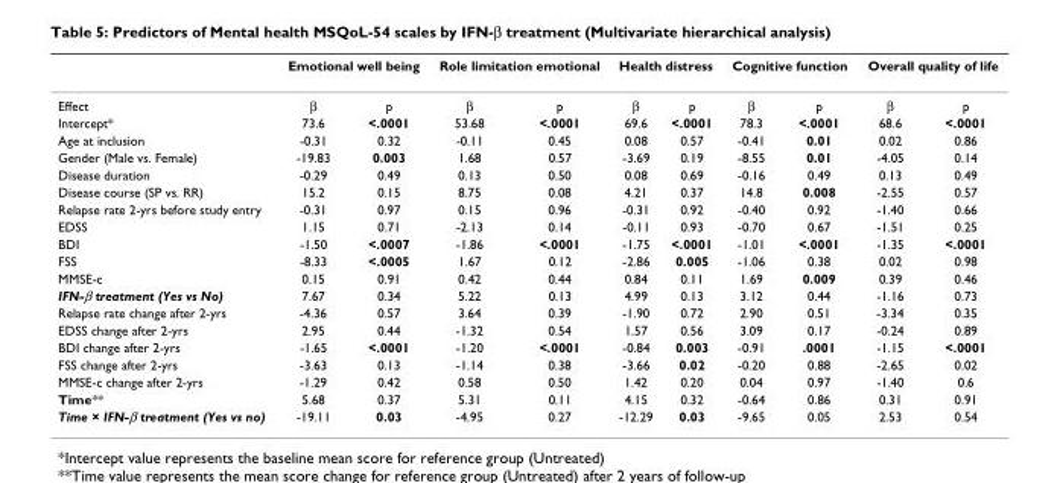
<table><thead><tr><td rowspan="2">Effect</td><td colspan="2">Emotional well being</td><td colspan="2">Role limitation emotional</td><td colspan="2">Health distress</td><td colspan="2">Cognitive function</td><td colspan="2">Overall quality of life</td></tr><tr><td>β</td><td>p</td><td>β</td><td>p</td><td>β</td><td>p</td><td>β</td><td>p</td><td>β</td><td>p</td></tr></thead><tbody><tr><td>Intercept*</td><td>73.6</td><td>&lt;.0001</td><td>53.68</td><td>&lt;.0001</td><td>69.6</td><td>&lt;.0001</td><td>78.3</td><td>&lt;.0001</td><td>68.6</td><td>&lt;.0001</td></tr><tr><td>Age at inclusion</td><td>-0.31</td><td>0.32</td><td>-0.11</td><td>0.45</td><td>0.08</td><td>0.57</td><td>-0.41</td><td>0.01</td><td>0.02</td><td>0.86</td></tr><tr><td>Gender (Male vs. Female)</td><td>-19.83</td><td>0.003</td><td>1.68</td><td>0.57</td><td>-3.69</td><td>0.19</td><td>-8.55</td><td>0.01</td><td>-4.05</td><td>0.14</td></tr><tr><td>Disease duration</td><td>-0.29</td><td>0.49</td><td>0.13</td><td>0.50</td><td>0.08</td><td>0.69</td><td>-0.16</td><td>0.49</td><td>0.13</td><td>0.49</td></tr><tr><td>Disease course (SP vs. RR)</td><td>15.2</td><td>0.15</td><td>8.75</td><td>0.08</td><td>4.21</td><td>0.37</td><td>14.8</td><td>0.008</td><td>-2.55</td><td>0.57</td></tr><tr><td>Relapse rate 2-yrs before study entry</td><td>-0.31</td><td>0.97</td><td>0.15</td><td>0.96</td><td>-0.31</td><td>0.92</td><td>-0.40</td><td>0.92</td><td>-1.40</td><td>0.66</td></tr><tr><td>EDSS</td><td>1.15</td><td>0.71</td><td>-2.13</td><td>0.14</td><td>-0.11</td><td>0.93</td><td>-0.70</td><td>0.67</td><td>-1.51</td><td>0.25</td></tr><tr><td>BDI</td><td>-1.50</td><td>&lt;.0007</td><td>-1.86</td><td>&lt;.0001</td><td>-1.75</td><td>&lt;.0001</td><td>-1.01</td><td>&lt;.0001</td><td>-1.35</td><td>&lt;.0001</td></tr><tr><td>FSS</td><td>-8.33</td><td>&lt;.0005</td><td>1.67</td><td>0.12</td><td>-2.86</td><td>0.005</td><td>-1.06</td><td>0.38</td><td>0.02</td><td>0.98</td></tr><tr><td>MMSE-c</td><td>0.15</td><td>0.91</td><td>0.42</td><td>0.44</td><td>0.84</td><td>0.11</td><td>1.69</td><td>0.009</td><td>0.39</td><td>0.46</td></tr><tr><td>IFN-β treatment (Yes vs No)</td><td>7.67</td><td>0.34</td><td>5.22</td><td>0.13</td><td>4.99</td><td>0.13</td><td>3.12</td><td>0.44</td><td>-1.16</td><td>0.73</td></tr><tr><td>Relapse rate change after 2-yrs</td><td>-4.36</td><td>0.57</td><td>3.64</td><td>0.39</td><td>-1.90</td><td>0.72</td><td>2.90</td><td>0.51</td><td>-3.34</td><td>0.35</td></tr><tr><td>EDSS change after 2-yrs</td><td>2.95</td><td>0.44</td><td>-1.32</td><td>0.54</td><td>1.57</td><td>0.56</td><td>3.09</td><td>0.17</td><td>-0.24</td><td>0.89</td></tr><tr><td>BDI change after 2-yrs</td><td>-1.65</td><td>&lt;.0001</td><td>-1.20</td><td>&lt;.0001</td><td>-0.84</td><td>0.003</td><td>-0.91</td><td>.0001</td><td>-1.15</td><td>&lt;.0001</td></tr><tr><td>FSS change after 2-yrs</td><td>-3.63</td><td>0.13</td><td>-1.14</td><td>0.38</td><td>-3.66</td><td>0.02</td><td>-0.20</td><td>0.88</td><td>-2.65</td><td>0.02</td></tr><tr><td>MMSE-c change after 2-yrs</td><td>-1.29</td><td>0.42</td><td>0.58</td><td>0.50</td><td>1.42</td><td>0.20</td><td>0.04</td><td>0.97</td><td>-1.40</td><td>0.6</td></tr><tr><td>Time**</td><td>5.68</td><td>0.37</td><td>5.31</td><td>0.11</td><td>4.15</td><td>0.32</td><td>-0.64</td><td>0.86</td><td>0.31</td><td>0.91</td></tr><tr><td>Time × IFN-β treatment (Yes vs no)</td><td>-19.11</td><td>0.03</td><td>-4.95</td><td>0.27</td><td>-12.29</td><td>0.03</td><td>-9.65</td><td>0.05</td><td>2.53</td><td>0.54</td></tr></tbody></table>